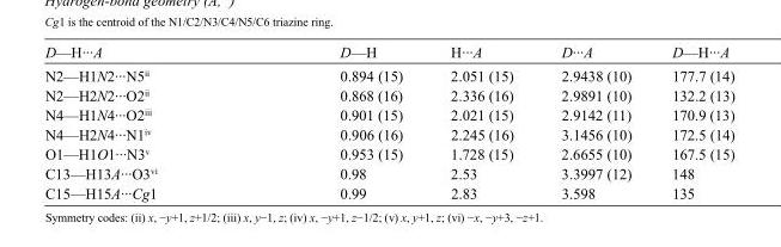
<table><tbody><tr><td>D—H···A</td><td>D—H</td><td>H···A</td><td>D···A</td><td>D—H···A</td></tr><tr><td>N2—H1N2···N5<sup>ii</sup></td><td>0.894 (15)</td><td>2.051 (15)</td><td>2.9438 (10)</td><td>177.7 (14)</td></tr><tr><td>N2—H2N2···O2<sup>ii</sup></td><td>0.868 (16)</td><td>2.336 (16)</td><td>2.9891 (10)</td><td>132.2 (13)</td></tr><tr><td>N4—H1N4···O2<sup>iii</sup></td><td>0.901 (15)</td><td>2.021 (15)</td><td>2.9142 (11)</td><td>170.9 (13)</td></tr><tr><td>N4—H2N4···N1<sup>iv</sup></td><td>0.906 (16)</td><td>2.245 (16)</td><td>3.1456 (10)</td><td>172.5 (14)</td></tr><tr><td>O1—H1O1···N3<sup>v</sup></td><td>0.953 (15)</td><td>1.728 (15)</td><td>2.6655 (10)</td><td>167.5 (15)</td></tr><tr><td>C13—H13A···O3<sup>vi</sup></td><td>0.98</td><td>2.53</td><td>3.3997 (12)</td><td>148</td></tr><tr><td>C15—H15A···Cg1</td><td>0.99</td><td>2.83</td><td>3.598</td><td>135</td></tr></tbody></table>